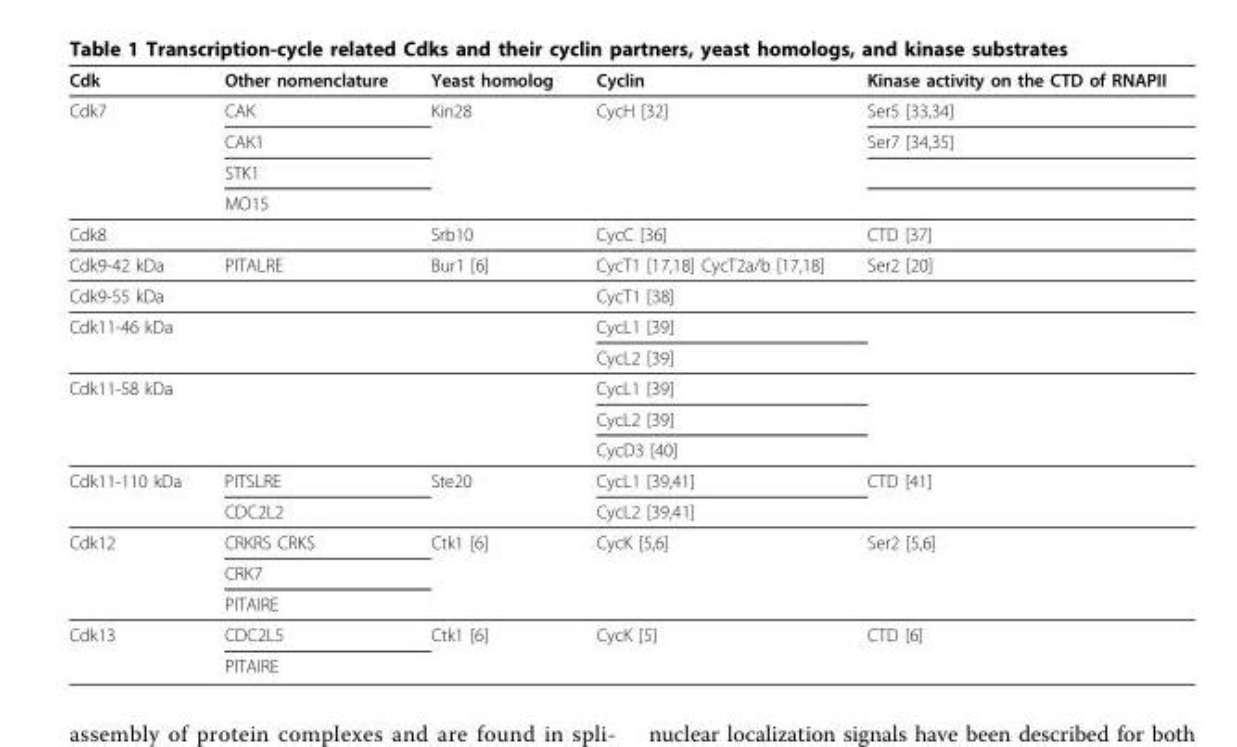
<table><thead><tr><td>Cdk</td><td>Other nomenclature</td><td>Yeast homolog</td><td>Cyclin</td><td>Kinase activity on the CTD of RNAPII</td></tr></thead><tbody><tr><td rowspan="4">Cdk7</td><td>CAK</td><td>Kin28</td><td>CycH [32]</td><td>Ser5 [33,34]</td></tr><tr><td>CAK1</td><td></td><td></td><td>Ser7 [34,35]</td></tr><tr><td>STK1</td><td></td><td></td><td></td></tr><tr><td>MO15</td><td></td><td></td><td></td></tr><tr><td>Cdk8</td><td></td><td>Srb10</td><td>CycC [36]</td><td>CTD [37]</td></tr><tr><td>Cdk9-42 kDa</td><td>PITALRE</td><td>Bur1 [6]</td><td>CycT1 [17,18] CycT2a/b [17,18]</td><td>Ser2 [20]</td></tr><tr><td>Cdk9-55 kDa</td><td></td><td></td><td>CycT1 [38]</td><td></td></tr><tr><td rowspan="2">Cdk11-46 kDa</td><td></td><td></td><td>CycL1 [39]</td><td></td></tr><tr><td></td><td></td><td>CycL2 [39]</td><td></td></tr><tr><td rowspan="3">Cdk11-58 kDa</td><td></td><td></td><td>CycL1 [39]</td><td></td></tr><tr><td></td><td></td><td>CycL2 [39]</td><td></td></tr><tr><td></td><td></td><td>CycD3 [40]</td><td></td></tr><tr><td rowspan="2">Cdk11-110 kDa</td><td>PITSLRE</td><td>Ste20</td><td>CycL1 [39,41]</td><td>CTD [41]</td></tr><tr><td>CDC2L2</td><td></td><td>CycL2 [39,41]</td><td></td></tr><tr><td rowspan="3">Cdk12</td><td>CRKRS CRKS</td><td>Ctk1 [6]</td><td>CycK [5,6]</td><td>Ser2 [5,6]</td></tr><tr><td>CRK7</td><td></td><td></td><td></td></tr><tr><td>PITAIRE</td><td></td><td></td><td></td></tr><tr><td rowspan="2">Cdk13</td><td>CDC2L5</td><td>Ctk1 [6]</td><td>CycK [5]</td><td>CTD [6]</td></tr><tr><td>PITAIRE</td><td></td><td></td><td></td></tr></tbody></table>